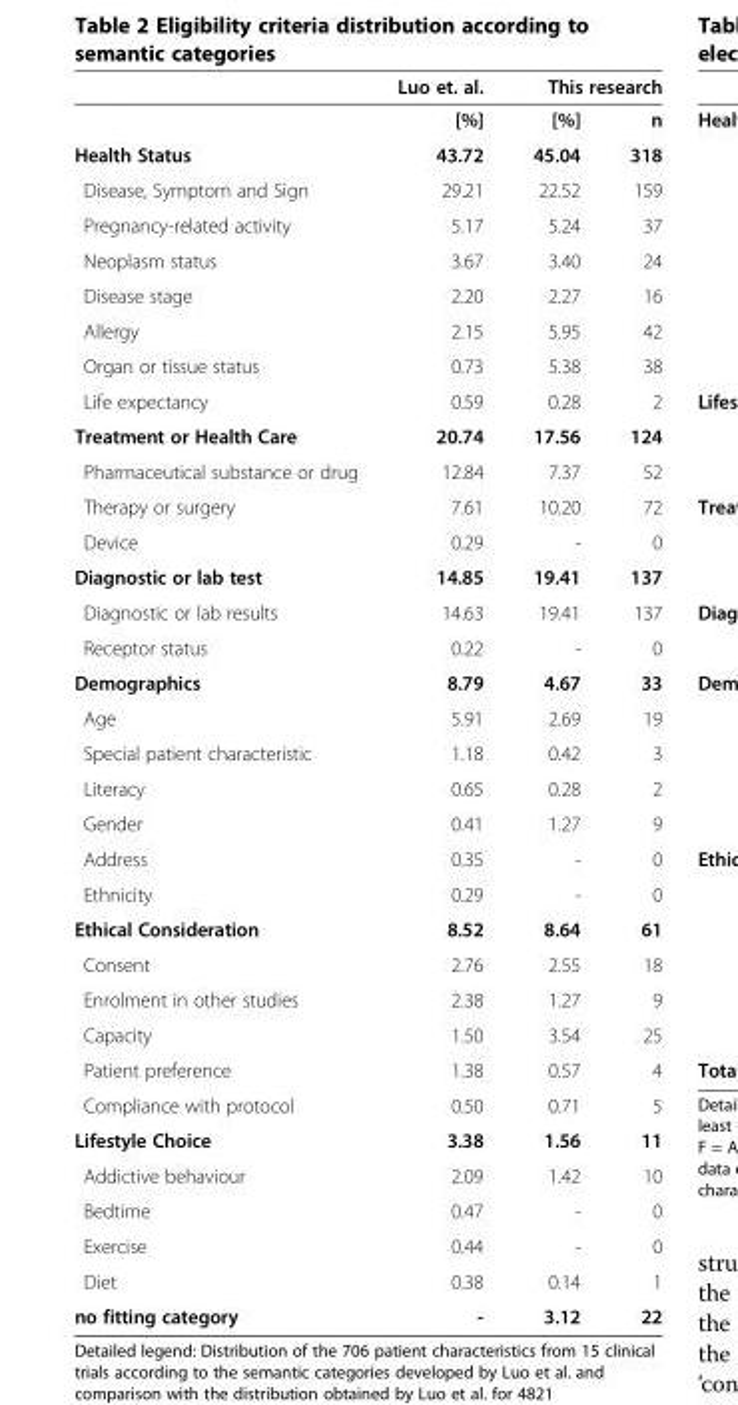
<table><thead><tr><td rowspan="2"></td><td rowspan="2">Luo et. al. [%]</td><td colspan="2">This research</td></tr><tr><td>[%]</td><td>n</td></tr></thead><tbody><tr><td>Health Status</td><td>43.72</td><td>45.04</td><td>318</td></tr><tr><td>Disease, Symptom and Sign</td><td>29.21</td><td>22.52</td><td>159</td></tr><tr><td>Pregnancy-related activity</td><td>5.17</td><td>5.24</td><td>37</td></tr><tr><td>Neoplasm status</td><td>3.67</td><td>3.40</td><td>24</td></tr><tr><td>Disease stage</td><td>2.20</td><td>2.27</td><td>16</td></tr><tr><td>Allergy</td><td>2.15</td><td>5.95</td><td>42</td></tr><tr><td>Organ or tissue status</td><td>0.73</td><td>5.38</td><td>38</td></tr><tr><td>Life expectancy</td><td>0.59</td><td>0.28</td><td>2</td></tr><tr><td>Treatment or Health Care</td><td>20.74</td><td>17.56</td><td>124</td></tr><tr><td>Pharmaceutical substance or drug</td><td>12.84</td><td>7.37</td><td>52</td></tr><tr><td>Therapy or surgery</td><td>7.61</td><td>10.20</td><td>72</td></tr><tr><td>Device</td><td>0.29</td><td>-</td><td>0</td></tr><tr><td>Diagnostic or lab test</td><td>14.85</td><td>19.41</td><td>137</td></tr><tr><td>Diagnostic or lab results</td><td>14.63</td><td>19.41</td><td>137</td></tr><tr><td>Receptor status</td><td>0.22</td><td>-</td><td>0</td></tr><tr><td>Demographics</td><td>8.79</td><td>4.67</td><td>33</td></tr><tr><td>Age</td><td>5.91</td><td>2.69</td><td>19</td></tr><tr><td>Special patient characteristic</td><td>1.18</td><td>0.42</td><td>3</td></tr><tr><td>Literacy</td><td>0.65</td><td>0.28</td><td>2</td></tr><tr><td>Gender</td><td>0.41</td><td>1.27</td><td>9</td></tr><tr><td>Address</td><td>0.35</td><td>-</td><td>0</td></tr><tr><td>Ethnicity</td><td>0.29</td><td>-</td><td>0</td></tr><tr><td>Ethical Consideration</td><td>8.52</td><td>8.64</td><td>61</td></tr><tr><td>Consent</td><td>2.76</td><td>2.55</td><td>18</td></tr><tr><td>Enrolment in other studies</td><td>2.38</td><td>1.27</td><td>9</td></tr><tr><td>Capacity</td><td>1.50</td><td>3.54</td><td>25</td></tr><tr><td>Patient preference</td><td>1.38</td><td>0.57</td><td>4</td></tr><tr><td>Compliance with protocol</td><td>0.50</td><td>0.71</td><td>5</td></tr><tr><td>Lifestyle Choice</td><td>3.38</td><td>1.56</td><td>11</td></tr><tr><td>Addictive behaviour</td><td>2.09</td><td>1.42</td><td>10</td></tr><tr><td>Bedtime</td><td>0.47</td><td>-</td><td>0</td></tr><tr><td>Exercise</td><td>0.44</td><td>-</td><td>0</td></tr><tr><td>Diet</td><td>0.38</td><td>0.14</td><td>1</td></tr><tr><td>no fitting category</td><td>-</td><td>3.12</td><td>22</td></tr></tbody></table>